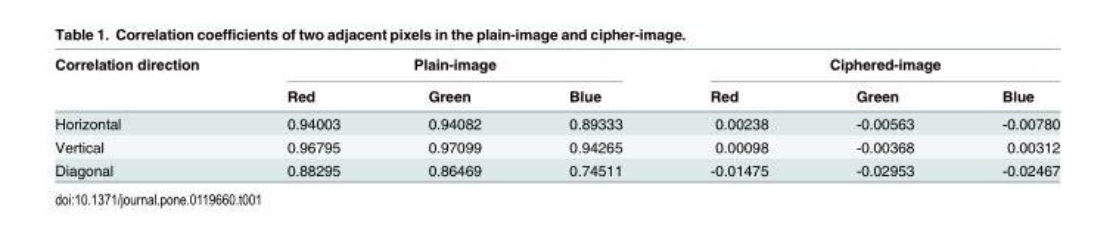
<table><thead><tr><td rowspan="2">Correlation direction</td><td colspan="3">Plain-image</td><td colspan="3">Ciphered-image</td></tr><tr><td>Red</td><td>Green</td><td>Blue</td><td>Red</td><td>Green</td><td>Blue</td></tr></thead><tbody><tr><td>Horizontal</td><td>0.94003</td><td>0.94082</td><td>0.89333</td><td>0.00238</td><td>-0.00563</td><td>-0.00780</td></tr><tr><td>Vertical</td><td>0.96795</td><td>0.97099</td><td>0.94265</td><td>0.00098</td><td>-0.00368</td><td>0.00312</td></tr><tr><td>Diagonal</td><td>0.88295</td><td>0.86469</td><td>0.74511</td><td>-0.01475</td><td>-0.02953</td><td>-0.02467</td></tr></tbody></table>